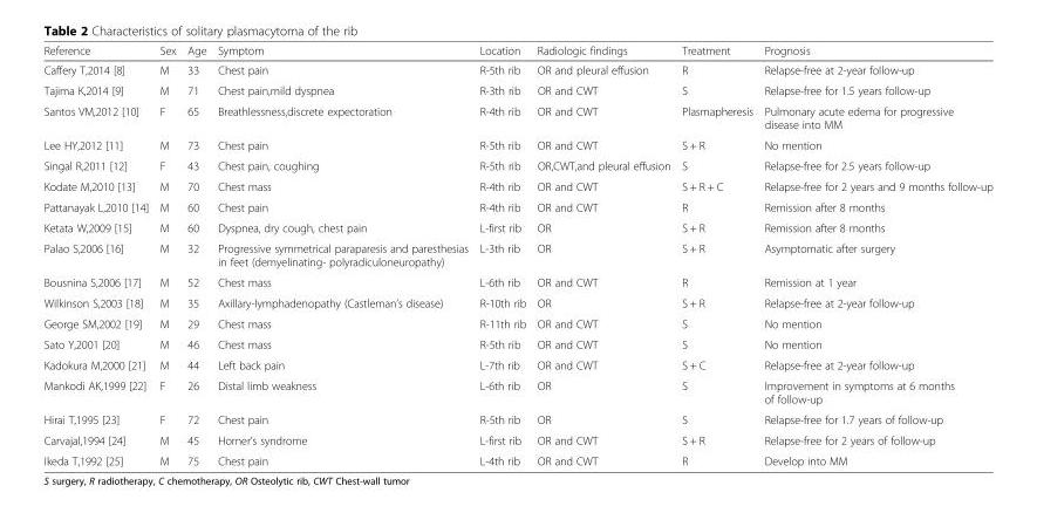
<table><thead><tr><td>Reference</td><td>Sex</td><td>Age</td><td>Symptom</td><td>Location</td><td>Radiologic findings</td><td>Treatment</td><td>Prognosis</td></tr></thead><tbody><tr><td>Caffery T,2014 [8]</td><td>M</td><td>33</td><td>Chest pain</td><td>R-5th rib</td><td>OR and pleural effusion</td><td>R</td><td>Relapse-free at 2-year follow-up</td></tr><tr><td>Tajima K,2014 [9]</td><td>M</td><td>71</td><td>Chest pain,mild dyspnea</td><td>R-3th rib</td><td>OR and CWT</td><td>S</td><td>Relapse-free for 1.5 years follow-up</td></tr><tr><td>Santos VM,2012 [10]</td><td>F</td><td>65</td><td>Breathlessness,discrete expectoration</td><td>R-4th rib</td><td>OR and CWT</td><td>Plasmapheresis</td><td>Pulmonary acute edema for progressive disease into MM</td></tr><tr><td>Lee HY,2012 [11]</td><td>M</td><td>73</td><td>Chest pain</td><td>R-5th rib</td><td>OR and CWT</td><td>S + R</td><td>No mention</td></tr><tr><td>Singal R,2011 [12]</td><td>F</td><td>43</td><td>Chest pain, coughing</td><td>R-5th rib</td><td>OR,CWT,and pleural effusion</td><td>S</td><td>Relapse-free for 2.5 years follow-up</td></tr><tr><td>Kodate M,2010 [13]</td><td>M</td><td>70</td><td>Chest mass</td><td>R-4th rib</td><td>OR and CWT</td><td>S + R + C</td><td>Relapse-free for 2 years and 9 months follow-up</td></tr><tr><td>Pattanayak L,2010 [14]</td><td>M</td><td>60</td><td>Chest pain</td><td>R-4th rib</td><td>OR and CWT</td><td>R</td><td>Remission after 8 months</td></tr><tr><td>Ketata W,2009 [15]</td><td>M</td><td>60</td><td>Dyspnea, dry cough, chest pain</td><td>L-first rib</td><td>OR</td><td>S + R</td><td>Remission after 8 months</td></tr><tr><td>Palao S,2006 [16]</td><td>M</td><td>32</td><td>Progressive symmetrical paraparesis and paresthesias in feet (demyelinating- polyradiculoneuropathy)</td><td>L-3th rib</td><td>OR</td><td>S + R</td><td>Asymptomatic after surgery</td></tr><tr><td>Bousnina S,2006 [17]</td><td>M</td><td>52</td><td>Chest mass</td><td>L-6th rib</td><td>OR and CWT</td><td>R</td><td>Remission at 1 year</td></tr><tr><td>Wilkinson S,2003 [18]</td><td>M</td><td>35</td><td>Axillary-lymphadenopathy (Castleman’s disease)</td><td>R-10th rib</td><td>OR</td><td>S + R</td><td>Relapse-free at 2-year follow-up</td></tr><tr><td>George SM,2002 [19]</td><td>M</td><td>29</td><td>Chest mass</td><td>R-11th rib</td><td>OR and CWT</td><td>S</td><td>No mention</td></tr><tr><td>Sato Y,2001 [20]</td><td>M</td><td>46</td><td>Chest mass</td><td>R-5th rib</td><td>OR and CWT</td><td>S</td><td>No mention</td></tr><tr><td>Kadokura M,2000 [21]</td><td>M</td><td>44</td><td>Left back pain</td><td>L-7th rib</td><td>OR and CWT</td><td>S + C</td><td>Relapse-free at 2-year follow-up</td></tr><tr><td>Mankodi AK,1999 [22]</td><td>F</td><td>26</td><td>Distal limb weakness</td><td>L-6th rib</td><td>OR</td><td>S</td><td>Improvement in symptoms at 6 months of follow-up</td></tr><tr><td>Hirai T,1995 [23]</td><td>F</td><td>72</td><td>Chest pain</td><td>R-5th rib</td><td>OR</td><td>S</td><td>Relapse-free for 1.7 years of follow-up</td></tr><tr><td>Carvajal,1994 [24]</td><td>M</td><td>45</td><td>Horner’s syndrome</td><td>L-first rib</td><td>OR and CWT</td><td>S + R</td><td>Relapse-free for 2 years of follow-up</td></tr><tr><td>Ikeda T,1992 [25]</td><td>M</td><td>75</td><td>Chest pain</td><td>L-4th rib</td><td>OR and CWT</td><td>R</td><td>Develop into MM</td></tr></tbody></table>